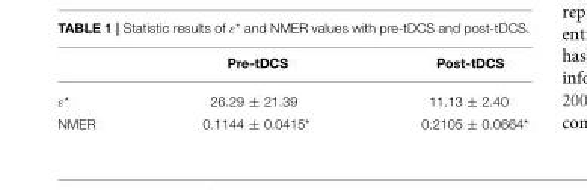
<table><thead><tr><td></td><td>Pre-tDCS</td><td>Post-tDCS</td></tr></thead><tbody><tr><td>ε*</td><td>26.29 ± 21.39</td><td>11.13 ± 2.40</td></tr><tr><td>NMER</td><td>0.1144 ± 0.0415*</td><td>0.2105 ± 0.0664*</td></tr></tbody></table>